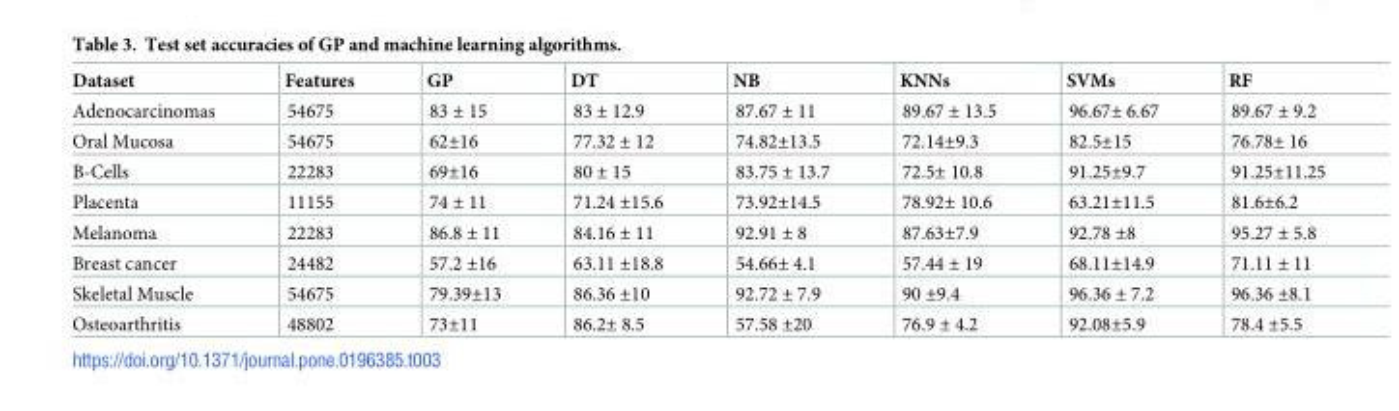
<table><thead><tr><td>Dataset</td><td>Features</td><td>GP</td><td>DT</td><td>NB</td><td>KNNs</td><td>SVMs</td><td>RF</td></tr></thead><tbody><tr><td>Adenocarcinomas</td><td>54675</td><td>83 ± 15</td><td>83 ± 12.9</td><td>87.67 ± 11</td><td>89.67 ± 13.5</td><td>96.67± 6.67</td><td>89.67 ± 9.2</td></tr><tr><td>Oral Mucosa</td><td>54675</td><td>62±16</td><td>77.32 ± 12</td><td>74.82±13.5</td><td>72.14±9.3</td><td>82.5±15</td><td>76.78± 16</td></tr><tr><td>B-Cells</td><td>22283</td><td>69±16</td><td>80 ± 15</td><td>83.75 ± 13.7</td><td>72.5± 10.8</td><td>91.25±9.7</td><td>91.25±11.25</td></tr><tr><td>Placenta</td><td>11155</td><td>74 ± 11</td><td>71.24 ±15.6</td><td>73.92±14.5</td><td>78.92± 10.6</td><td>63.21±11.5</td><td>81.6±6.2</td></tr><tr><td>Melanoma</td><td>22283</td><td>86.8 ± 11</td><td>84.16 ± 11</td><td>92.91 ± 8</td><td>87.63±7.9</td><td>92.78 ±8</td><td>95.27 ± 5.8</td></tr><tr><td>Breast cancer</td><td>24482</td><td>57.2 ±16</td><td>63.11 ±18.8</td><td>54.66± 4.1</td><td>57.44 ± 19</td><td>68.11±14.9</td><td>71.11 ± 11</td></tr><tr><td>Skeletal Muscle</td><td>54675</td><td>79.39±13</td><td>86.36 ±10</td><td>92.72 ± 7.9</td><td>90 ±9.4</td><td>96.36 ± 7.2</td><td>96.36 ±8.1</td></tr><tr><td>Osteoarthritis</td><td>48802</td><td>73±11</td><td>86.2± 8.5</td><td>57.58 ±20</td><td>76.9 ± 4.2</td><td>92.08±5.9</td><td>78.4 ±5.5</td></tr></tbody></table>